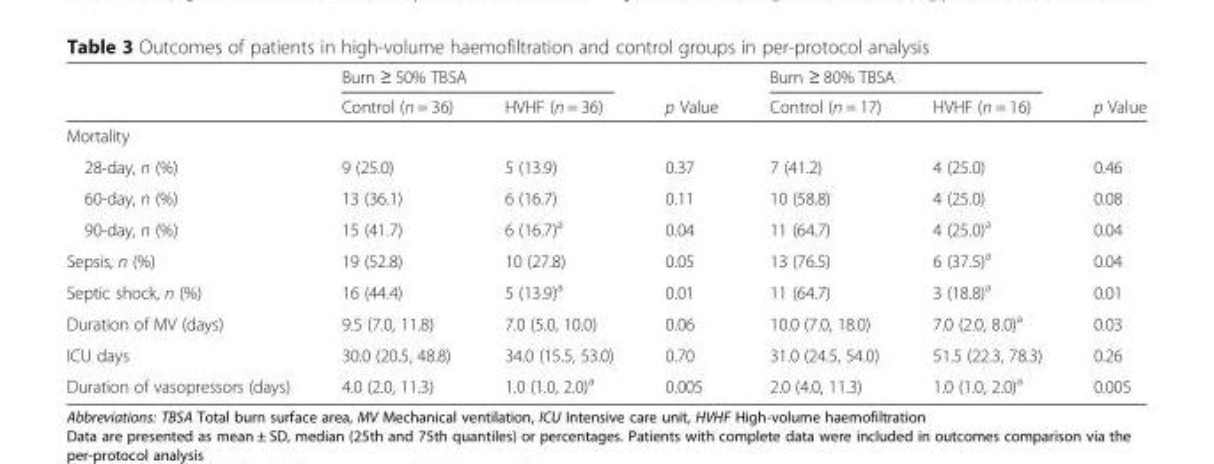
<table><thead><tr><td rowspan="2"></td><td colspan="2">Burn ≥ 50% TBSA</td><td rowspan="2">p Value</td><td colspan="2">Burn ≥ 80% TBSA</td><td rowspan="2">p Value</td></tr><tr><td>Control (n = 36)</td><td>HVHF (n = 36)</td><td>Control (n = 17)</td><td>HVHF (n = 16)</td></tr></thead><tbody><tr><td colspan="7">Mortality</td></tr><tr><td>28-day, n (%)</td><td>9 (25.0)</td><td>5 (13.9)</td><td>0.37</td><td>7 (41.2)</td><td>4 (25.0)</td><td>0.46</td></tr><tr><td>60-day, n (%)</td><td>13 (36.1)</td><td>6 (16.7)</td><td>0.11</td><td>10 (58.8)</td><td>4 (25.0)</td><td>0.08</td></tr><tr><td>90-day, n (%)</td><td>15 (41.7)</td><td>6 (16.7)<sup>a</sup></td><td>0.04</td><td>11 (64.7)</td><td>4 (25.0)<sup>a</sup></td><td>0.04</td></tr><tr><td>Sepsis, n (%)</td><td>19 (52.8)</td><td>10 (27.8)</td><td>0.05</td><td>13 (76.5)</td><td>6 (37.5)<sup>a</sup></td><td>0.04</td></tr><tr><td>Septic shock, n (%)</td><td>16 (44.4)</td><td>5 (13.9)<sup>a</sup></td><td>0.01</td><td>11 (64.7)</td><td>3 (18.8)<sup>a</sup></td><td>0.01</td></tr><tr><td>Duration of MV (days)</td><td>9.5 (7.0, 11.8)</td><td>7.0 (5.0, 10.0)</td><td>0.06</td><td>10.0 (7.0, 18.0)</td><td>7.0 (2.0, 8.0)<sup>a</sup></td><td>0.03</td></tr><tr><td>ICU days</td><td>30.0 (20.5, 48.8)</td><td>34.0 (15.5, 53.0)</td><td>0.70</td><td>31.0 (24.5, 54.0)</td><td>51.5 (22.3, 78.3)</td><td>0.26</td></tr><tr><td>Duration of vasopressors (days)</td><td>4.0 (2.0, 11.3)</td><td>1.0 (1.0, 2.0)<sup>a</sup></td><td>0.005</td><td>2.0 (4.0, 11.3)</td><td>1.0 (1.0, 2.0)<sup>a</sup></td><td>0.005</td></tr></tbody></table>